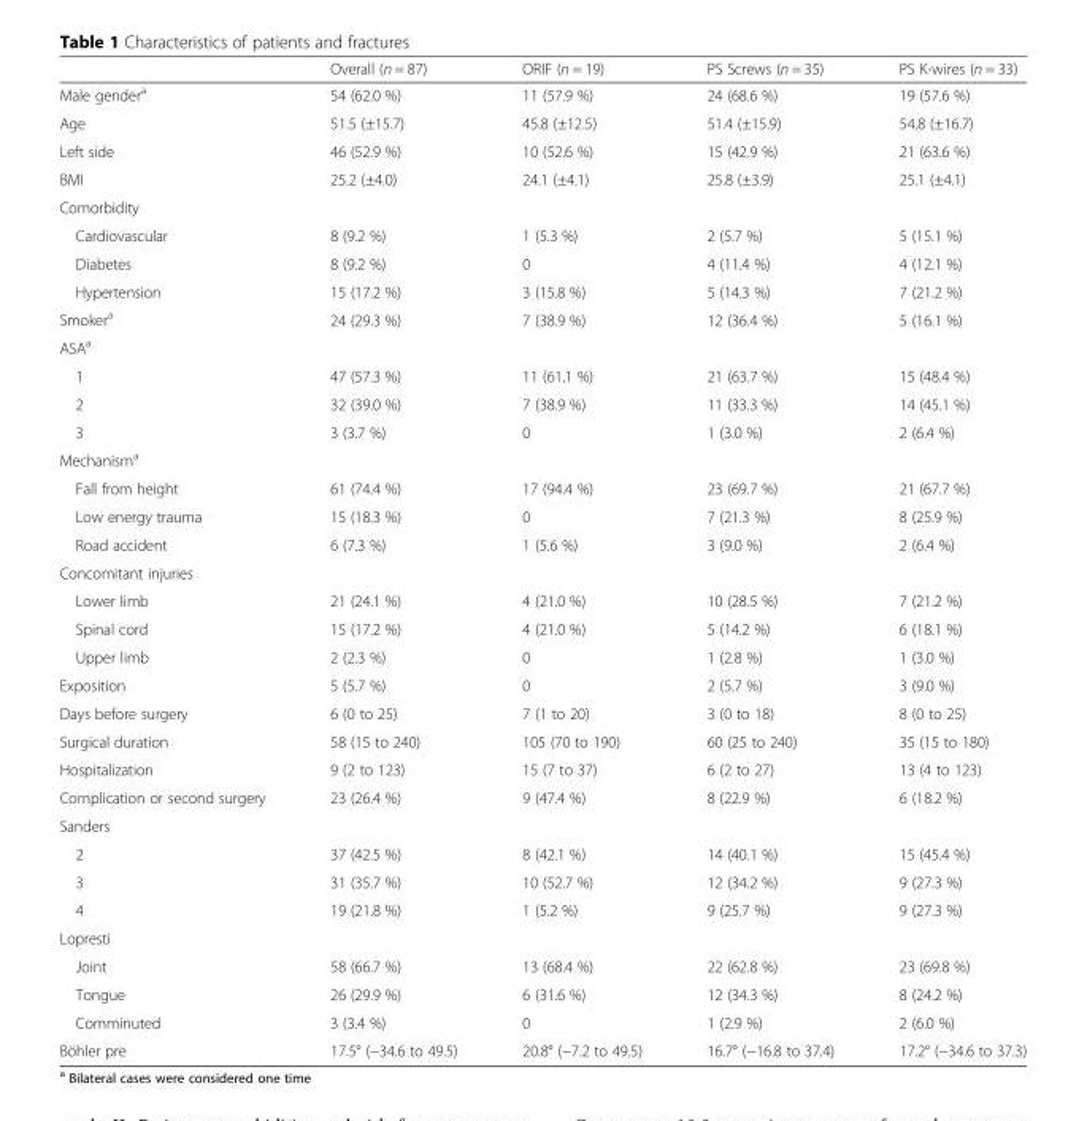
<table><thead><tr><td></td><td>Overall (n = 87)</td><td>ORIF (n = 19)</td><td>PS Screws (n = 35)</td><td>PS K-wires (n = 33)</td></tr></thead><tbody><tr><td>Male gender<sup>a</sup></td><td>54 (62.0 %)</td><td>11 (57.9 %)</td><td>24 (68.6 %)</td><td>19 (57.6 %)</td></tr><tr><td>Age</td><td>51.5 (±15.7)</td><td>45.8 (±12.5)</td><td>51.4 (±15.9)</td><td>54.8 (±16.7)</td></tr><tr><td>Left side</td><td>46 (52.9 %)</td><td>10 (52.6 %)</td><td>15 (42.9 %)</td><td>21 (63.6 %)</td></tr><tr><td>BMI</td><td>25.2 (±4.0)</td><td>24.1 (±4.1)</td><td>25.8 (±3.9)</td><td>25.1 (±4.1)</td></tr><tr><td colspan="5">Comorbidity</td></tr><tr><td>Cardiovascular</td><td>8 (9.2 %)</td><td>1 (5.3 %)</td><td>2 (5.7 %)</td><td>5 (15.1 %)</td></tr><tr><td>Diabetes</td><td>8 (9.2 %)</td><td>0</td><td>4 (11.4 %)</td><td>4 (12.1 %)</td></tr><tr><td>Hypertension</td><td>15 (17.2 %)</td><td>3 (15.8 %)</td><td>5 (14.3 %)</td><td>7 (21.2 %)</td></tr><tr><td>Smoker<sup>a</sup></td><td>24 (29.3 %)</td><td>7 (38.9 %)</td><td>12 (36.4 %)</td><td>5 (16.1 %)</td></tr><tr><td colspan="5">ASA<sup>a</sup></td></tr><tr><td>1</td><td>47 (57.3 %)</td><td>11 (61.1 %)</td><td>21 (63.7 %)</td><td>15 (48.4 %)</td></tr><tr><td>2</td><td>32 (39.0 %)</td><td>7 (38.9 %)</td><td>11 (33.3 %)</td><td>14 (45.1 %)</td></tr><tr><td>3</td><td>3 (3.7 %)</td><td>0</td><td>1 (3.0 %)</td><td>2 (6.4 %)</td></tr><tr><td colspan="5">Mechanism<sup>a</sup></td></tr><tr><td>Fall from height</td><td>61 (74.4 %)</td><td>17 (94.4 %)</td><td>23 (69.7 %)</td><td>21 (67.7 %)</td></tr><tr><td>Low energy trauma</td><td>15 (18.3 %)</td><td>0</td><td>7 (21.3 %)</td><td>8 (25.9 %)</td></tr><tr><td>Road accident</td><td>6 (7.3 %)</td><td>1 (5.6 %)</td><td>3 (9.0 %)</td><td>2 (6.4 %)</td></tr><tr><td colspan="5">Concomitant injuries</td></tr><tr><td>Lower limb</td><td>21 (24.1 %)</td><td>4 (21.0 %)</td><td>10 (28.5 %)</td><td>7 (21.2 %)</td></tr><tr><td>Spinal cord</td><td>15 (17.2 %)</td><td>4 (21.0 %)</td><td>5 (14.2 %)</td><td>6 (18.1 %)</td></tr><tr><td>Upper limb</td><td>2 (2.3 %)</td><td>0</td><td>1 (2.8 %)</td><td>1 (3.0 %)</td></tr><tr><td>Exposition</td><td>5 (5.7 %)</td><td>0</td><td>2 (5.7 %)</td><td>3 (9.0 %)</td></tr><tr><td>Days before surgery</td><td>6 (0 to 25)</td><td>7 (1 to 20)</td><td>3 (0 to 18)</td><td>8 (0 to 25)</td></tr><tr><td>Surgical duration</td><td>58 (15 to 240)</td><td>105 (70 to 190)</td><td>60 (25 to 240)</td><td>35 (15 to 180)</td></tr><tr><td>Hospitalization</td><td>9 (2 to 123)</td><td>15 (7 to 37)</td><td>6 (2 to 27)</td><td>13 (4 to 123)</td></tr><tr><td>Complication or second surgery</td><td>23 (26.4 %)</td><td>9 (47.4 %)</td><td>8 (22.9 %)</td><td>6 (18.2 %)</td></tr><tr><td colspan="5">Sanders</td></tr><tr><td>2</td><td>37 (42.5 %)</td><td>8 (42.1 %)</td><td>14 (40.1 %)</td><td>15 (45.4 %)</td></tr><tr><td>3</td><td>31 (35.7 %)</td><td>10 (52.7 %)</td><td>12 (34.2 %)</td><td>9 (27.3 %)</td></tr><tr><td>4</td><td>19 (21.8 %)</td><td>1 (5.2 %)</td><td>9 (25.7 %)</td><td>9 (27.3 %)</td></tr><tr><td colspan="5">Lopresti</td></tr><tr><td>Joint</td><td>58 (66.7 %)</td><td>13 (68.4 %)</td><td>22 (62.8 %)</td><td>23 (69.8 %)</td></tr><tr><td>Tongue</td><td>26 (29.9 %)</td><td>6 (31.6 %)</td><td>12 (34.3 %)</td><td>8 (24.2 %)</td></tr><tr><td>Comminuted</td><td>3 (3.4 %)</td><td>0</td><td>1 (2.9 %)</td><td>2 (6.0 %)</td></tr><tr><td>Böhler pre</td><td>17.5° (−34.6 to 49.5)</td><td>20.8° (−7.2 to 49.5)</td><td>16.7° (−16.8 to 37.4)</td><td>17.2° (−34.6 to 37.3)</td></tr></tbody></table>